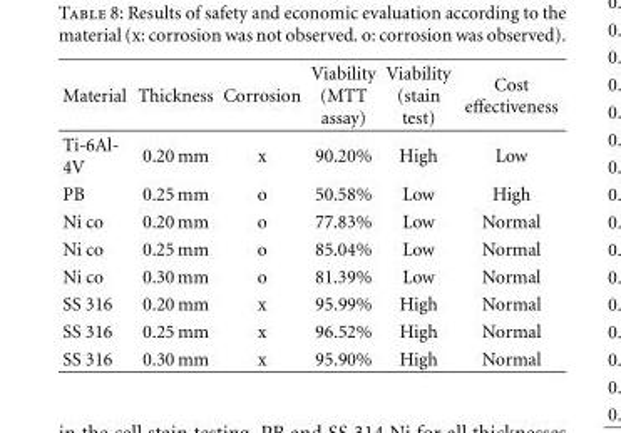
<table><thead><tr><td>Material</td><td>Thickness</td><td>Corrosion</td><td>Viability (MTT assay)</td><td>Viability (stain test)</td><td>Cost effectiveness</td></tr></thead><tbody><tr><td>Ti-6Al- 4V</td><td>0.20 mm</td><td>x</td><td>90.20%</td><td>High</td><td>Low</td></tr><tr><td>PB</td><td>0.25 mm</td><td>o</td><td>50.58%</td><td>Low</td><td>High</td></tr><tr><td>Ni co</td><td>0.20 mm</td><td>o</td><td>77.83%</td><td>Low</td><td>Normal</td></tr><tr><td>Ni co</td><td>0.25 mm</td><td>o</td><td>85.04%</td><td>Low</td><td>Normal</td></tr><tr><td>Ni co</td><td>0.30 mm</td><td>o</td><td>81.39%</td><td>Low</td><td>Normal</td></tr><tr><td>SS 316</td><td>0.20 mm</td><td>x</td><td>95.99%</td><td>High</td><td>Normal</td></tr><tr><td>SS 316</td><td>0.25 mm</td><td>x</td><td>96.52%</td><td>High</td><td>Normal</td></tr><tr><td>SS 316</td><td>0.30 mm</td><td>x</td><td>95.90%</td><td>High</td><td>Normal</td></tr></tbody></table>